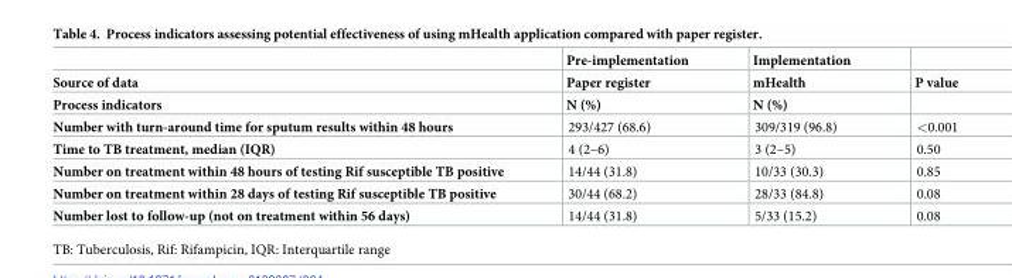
<table><thead><tr><td rowspan="3">Source of data Process indicators</td><td rowspan="3">Pre-implementation Paper register N (%)</td><td rowspan="3">Implementation mHealth N (%)</td><td rowspan="3">P value</td></tr><tr></tr><tr></tr></thead><tbody><tr><td>Number with turn-around time for sputum results within 48 hours</td><td>293/427 (68.6)</td><td>309/319 (96.8)</td><td>&lt;0.001</td></tr><tr><td>Time to TB treatment, median (IQR)</td><td>4 (2–6)</td><td>3 (2–5)</td><td>0.50</td></tr><tr><td>Number on treatment within 48 hours of testing Rif susceptible TB positive</td><td>14/44 (31.8)</td><td>10/33 (30.3)</td><td>0.85</td></tr><tr><td>Number on treatment within 28 days of testing Rif susceptible TB positive</td><td>30/44 (68.2)</td><td>28/33 (84.8)</td><td>0.08</td></tr><tr><td>Number lost to follow-up (not on treatment within 56 days)</td><td>14/44 (31.8)</td><td>5/33 (15.2)</td><td>0.08</td></tr></tbody></table>